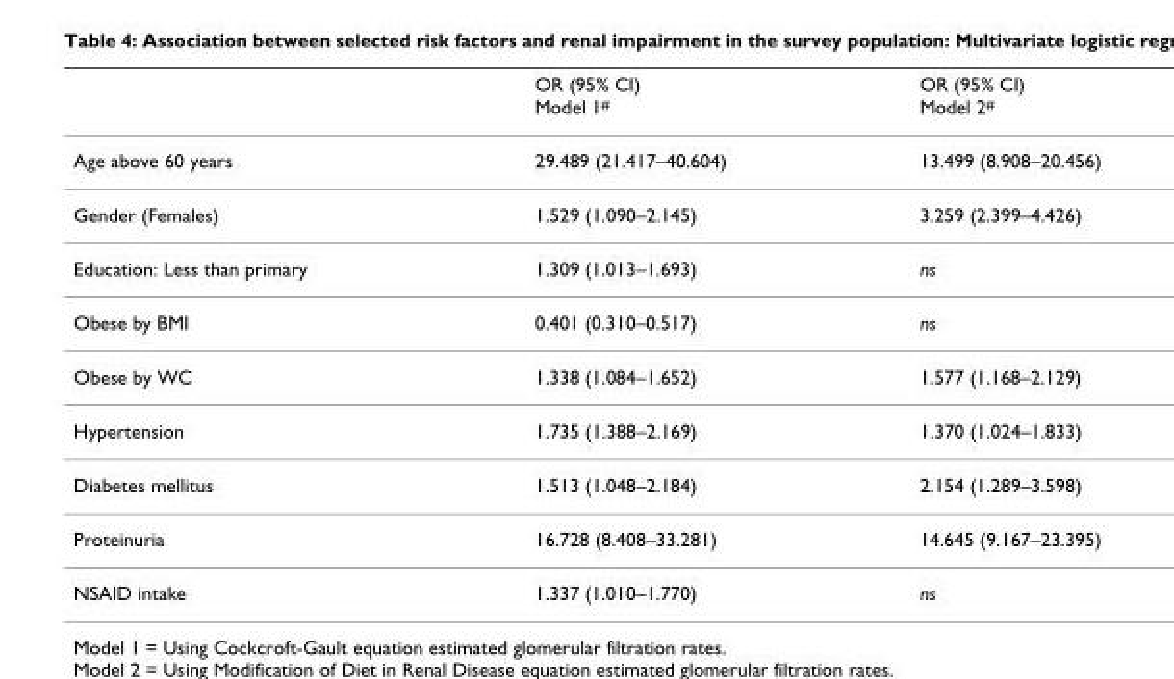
<table><thead><tr><td></td><td>OR (95% CI) Model 1<sup>#</sup></td><td>OR (95% CI) Model 2<sup>#</sup></td></tr></thead><tbody><tr><td>Age above 60 years</td><td>29.489 (21.417–40.604)</td><td>13.499 (8.908–20.456)</td></tr><tr><td>Gender (Females)</td><td>1.529 (1.090–2.145)</td><td>3.259 (2.399–4.426)</td></tr><tr><td>Education: Less than primary</td><td>1.309 (1.013–1.693)</td><td>ns</td></tr><tr><td>Obese by BMI</td><td>0.401 (0.310–0.517)</td><td>ns</td></tr><tr><td>Obese by WC</td><td>1.338 (1.084–1.652)</td><td>1.577 (1.168–2.129)</td></tr><tr><td>Hypertension</td><td>1.735 (1.388–2.169)</td><td>1.370 (1.024–1.833)</td></tr><tr><td>Diabetes mellitus</td><td>1.513 (1.048–2.184)</td><td>2.154 (1.289–3.598)</td></tr><tr><td>Proteinuria</td><td>16.728 (8.408–33.281)</td><td>14.645 (9.167–23.395)</td></tr><tr><td>NSAID intake</td><td>1.337 (1.010–1.770)</td><td>ns</td></tr></tbody></table>